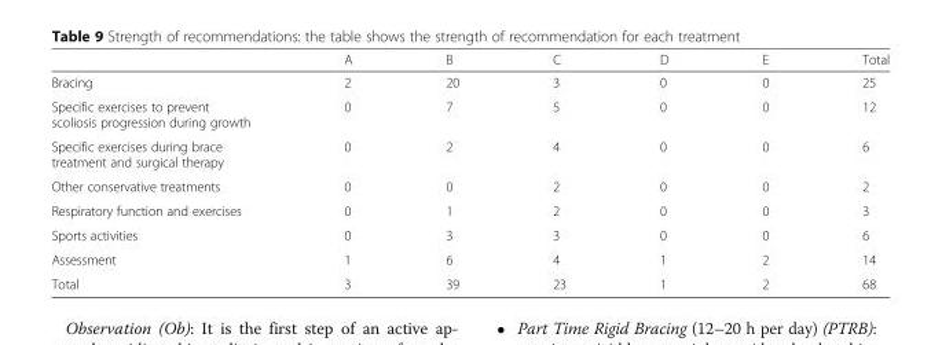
<table><thead><tr><td></td><td>A</td><td>B</td><td>C</td><td>D</td><td>E</td><td>Total</td></tr></thead><tbody><tr><td>Bracing</td><td>2</td><td>20</td><td>3</td><td>0</td><td>0</td><td>25</td></tr><tr><td>Specific exercises to prevent scoliosis progression during growth</td><td>0</td><td>7</td><td>5</td><td>0</td><td>0</td><td>12</td></tr><tr><td>Specific exercises during brace treatment and surgical therapy</td><td>0</td><td>2</td><td>4</td><td>0</td><td>0</td><td>6</td></tr><tr><td>Other conservative treatments</td><td>0</td><td>0</td><td>2</td><td>0</td><td>0</td><td>2</td></tr><tr><td>Respiratory function and exercises</td><td>0</td><td>1</td><td>2</td><td>0</td><td>0</td><td>3</td></tr><tr><td>Sports activities</td><td>0</td><td>3</td><td>3</td><td>0</td><td>0</td><td>6</td></tr><tr><td>Assessment</td><td>1</td><td>6</td><td>4</td><td>1</td><td>2</td><td>14</td></tr><tr><td>Total</td><td>3</td><td>39</td><td>23</td><td>1</td><td>2</td><td>68</td></tr></tbody></table>